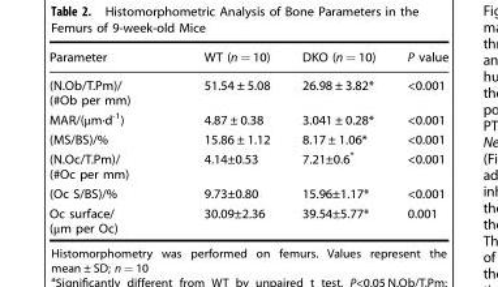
<table><thead><tr><td>Parameter</td><td>WT (n = 10)</td><td>DKO (n = 10)</td><td>P value</td></tr></thead><tbody><tr><td>(N.Ob/T.Pm)/ (#Ob per mm)</td><td>51.54 ± 5.08</td><td>26.98 ± 3.82*</td><td>&lt;0.001</td></tr><tr><td>MAR/(μm·d<sup>-1</sup>)</td><td>4.87 ± 0.38</td><td>3.041 ± 0.28*</td><td>&lt;0.001</td></tr><tr><td>(MS/BS)/%</td><td>15.86 ± 1.12</td><td>8.17 ± 1.06*</td><td>&lt;0.001</td></tr><tr><td>(N.Oc/T.Pm)/ (#Oc per mm)</td><td>4.14±0.53</td><td>7.21±0.6*</td><td>&lt;0.001</td></tr><tr><td>(Oc S/BS)/%</td><td>9.73±0.80</td><td>15.96±1.17*</td><td>&lt;0.001</td></tr><tr><td>Oc surface/ (μm per Oc)</td><td>30.09±2.36</td><td>39.54±5.77*</td><td>0.001</td></tr></tbody></table>